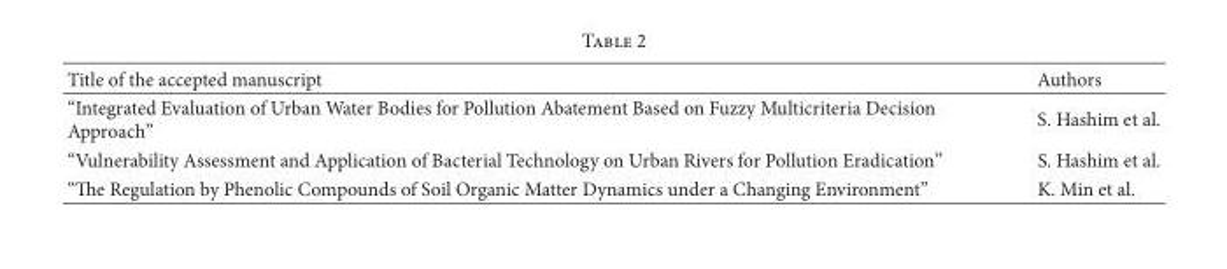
<table><thead><tr><td>Title of the accepted manuscript</td><td>Authors</td></tr></thead><tbody><tr><td>“Integrated Evaluation of Urban Water Bodies for Pollution Abatement Based on Fuzzy Multicriteria Decision Approach”</td><td>S. Hashim et al.</td></tr><tr><td>“Vulnerability Assessment and Application of Bacterial Technology on Urban Rivers for Pollution Eradication”</td><td>S. Hashim et al.</td></tr><tr><td>“The Regulation by Phenolic Compounds of Soil Organic Matter Dynamics under a Changing Environment”</td><td>K. Min et al.</td></tr></tbody></table>